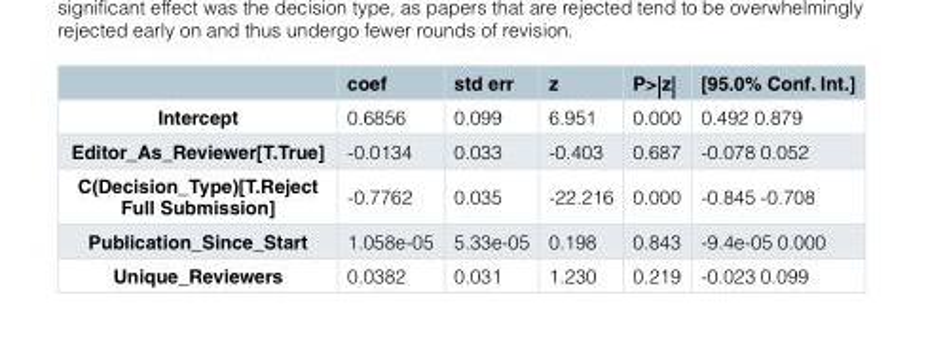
<table><thead><tr><td></td><td>coef</td><td>std err</td><td>z</td><td>P&gt;|z|</td><td>[95.0% Conf. Int.]</td></tr></thead><tbody><tr><td>Intercept</td><td>0.6856</td><td>0.099</td><td>6.951</td><td>0.000</td><td>0.492 0.879</td></tr><tr><td>Editor_As_Reviewer[T.True]</td><td>-0.0134</td><td>0.033</td><td>-0.403</td><td>0.687</td><td>-0.078 0.052</td></tr><tr><td>C(Decision_Type)[T.Reject Full Submission]</td><td>-0.7762</td><td>0.035</td><td>-22.216</td><td>0.000</td><td>-0.845 -0.708</td></tr><tr><td>Publication_Since_Start</td><td>1.058e-05</td><td>5.33e-05</td><td>0.198</td><td>0.843</td><td>-9.4e-05 0.000</td></tr><tr><td>Unique_Reviewers</td><td>0.0382</td><td>0.031</td><td>1.230</td><td>0.219</td><td>-0.023 0.099</td></tr></tbody></table>